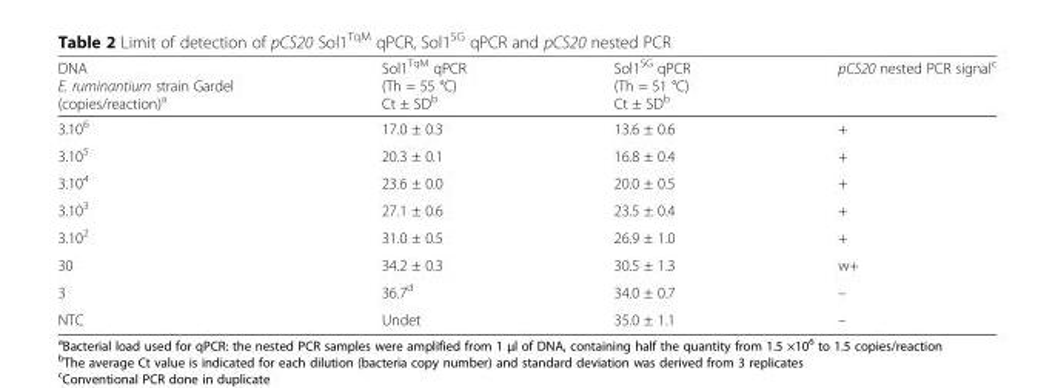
<table><thead><tr><td>DNA E. ruminantium strain Gardel (copies/reaction)<sup>a</sup></td><td>Sol1<sup>TqM</sup> qPCR (Th = 55 °C) Ct ± SD<sup>b</sup></td><td>Sol1<sup>SG</sup> qPCR (Th = 51 °C) Ct ± SD<sup>b</sup></td><td>pCS20 nested PCR signal<sup>c</sup></td></tr></thead><tbody><tr><td>3.10<sup>6</sup></td><td>17.0 ± 0.3</td><td>13.6 ± 0.6</td><td>+</td></tr><tr><td>3.10<sup>5</sup></td><td>20.3 ± 0.1</td><td>16.8 ± 0.4</td><td>+</td></tr><tr><td>3.10<sup>4</sup></td><td>23.6 ± 0.0</td><td>20.0 ± 0.5</td><td>+</td></tr><tr><td>3.10<sup>3</sup></td><td>27.1 ± 0.6</td><td>23.5 ± 0.4</td><td>+</td></tr><tr><td>3.10<sup>2</sup></td><td>31.0 ± 0.5</td><td>26.9 ± 1.0</td><td>+</td></tr><tr><td>30</td><td>34.2 ± 0.3</td><td>30.5 ± 1.3</td><td>w+</td></tr><tr><td>3</td><td>36.7<sup>d</sup></td><td>34.0 ± 0.7</td><td>–</td></tr><tr><td>NTC</td><td>Undet</td><td>35.0 ± 1.1</td><td>–</td></tr></tbody></table>